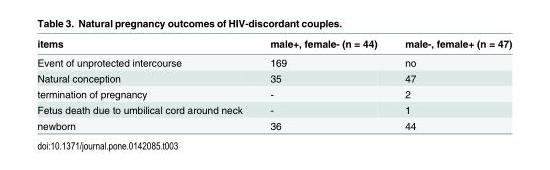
<table><thead><tr><td>items</td><td>male+, female- (n = 44)</td><td>male-, female+ (n = 47)</td></tr></thead><tbody><tr><td>Event of unprotected intercourse</td><td>169</td><td>no</td></tr><tr><td>Natural conception</td><td>35</td><td>47</td></tr><tr><td>termination of pregnancy</td><td>-</td><td>2</td></tr><tr><td>Fetus death due to umbilical cord around neck</td><td>-</td><td>1</td></tr><tr><td>newborn</td><td>36</td><td>44</td></tr></tbody></table>